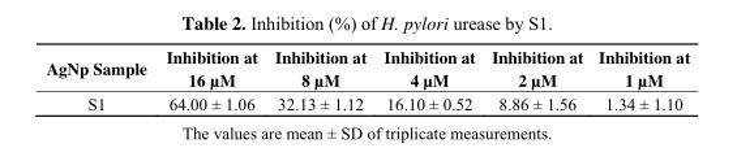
<table><thead><tr><td>AgNp Sample</td><td>Inhibition at 16 µM</td><td>Inhibition at 8 µM</td><td>Inhibition at 4 µM</td><td>Inhibition at 2 µM</td><td>Inhibition at 1 µM</td></tr></thead><tbody><tr><td>S1</td><td>64.00 ± 1.06</td><td>32.13 ± 1.12</td><td>16.10 ± 0.52</td><td>8.86 ± 1.56</td><td>1.34 ± 1.10</td></tr></tbody></table>